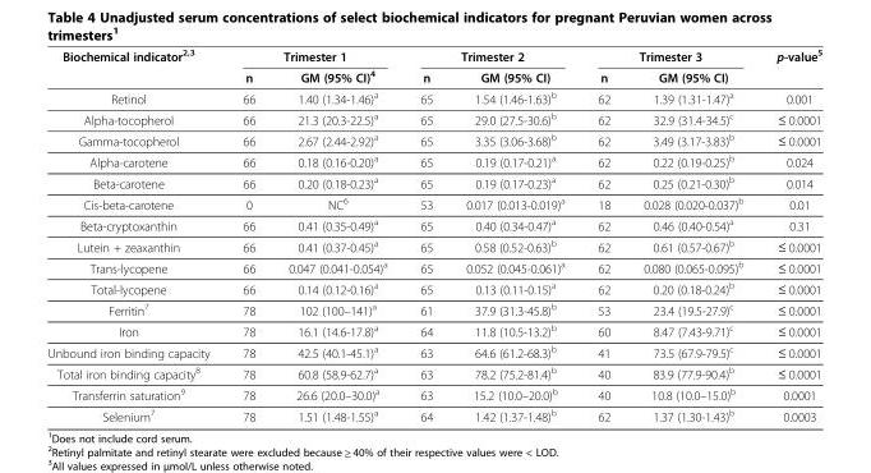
<table><thead><tr><td rowspan="2">Biochemical indicator<sup>2,3</sup></td><td colspan="2">Trimester 1</td><td colspan="2">Trimester 2</td><td colspan="2">Trimester 3</td><td rowspan="2">p-value<sup>5</sup></td></tr><tr><td>n</td><td>GM (95% CI)<sup>4</sup></td><td>n</td><td>GM (95% CI)</td><td>n</td><td>GM (95% CI)</td></tr></thead><tbody><tr><td>Retinol</td><td>66</td><td>1.40 (1.34-1.46)<sup>a</sup></td><td>65</td><td>1.54 (1.46-1.63)<sup>b</sup></td><td>62</td><td>1.39 (1.31-1.47)<sup>a</sup></td><td>0.001</td></tr><tr><td>Alpha-tocopherol</td><td>66</td><td>21.3 (20.3-22.5)<sup>a</sup></td><td>65</td><td>29.0 (27.5-30.6)<sup>b</sup></td><td>62</td><td>32.9 (31.4-34.5)<sup>c</sup></td><td>≤ 0.0001</td></tr><tr><td>Gamma-tocopherol</td><td>66</td><td>2.67 (2.44-2.92)<sup>a</sup></td><td>65</td><td>3.35 (3.06-3.68)<sup>b</sup></td><td>62</td><td>3.49 (3.17-3.83)<sup>b</sup></td><td>≤ 0.0001</td></tr><tr><td>Alpha-carotene</td><td>66</td><td>0.18 (0.16-0.20)<sup>a</sup></td><td>65</td><td>0.19 (0.17-0.21)<sup>a</sup></td><td>62</td><td>0.22 (0.19-0.25)<sup>b</sup></td><td>0.024</td></tr><tr><td>Beta-carotene</td><td>66</td><td>0.20 (0.18-0.23)<sup>a</sup></td><td>65</td><td>0.19 (0.17-0.23)<sup>a</sup></td><td>62</td><td>0.25 (0.21-0.30)<sup>b</sup></td><td>0.014</td></tr><tr><td>Cis-beta-carotene</td><td>0</td><td>NC<sup>6</sup></td><td>53</td><td>0.017 (0.013-0.019)<sup>a</sup></td><td>18</td><td>0.028 (0.020-0.037)<sup>b</sup></td><td>0.01</td></tr><tr><td>Beta-cryptoxanthin</td><td>66</td><td>0.41 (0.35-0.49)<sup>a</sup></td><td>65</td><td>0.40 (0.34-0.47)<sup>a</sup></td><td>62</td><td>0.46 (0.40-0.54)<sup>a</sup></td><td>0.31</td></tr><tr><td>Lutein + zeaxanthin</td><td>66</td><td>0.41 (0.37-0.45)<sup>a</sup></td><td>65</td><td>0.58 (0.52-0.63)<sup>b</sup></td><td>62</td><td>0.61 (0.57-0.67)<sup>b</sup></td><td>≤ 0.0001</td></tr><tr><td>Trans-lycopene</td><td>66</td><td>0.047 (0.041-0.054)<sup>a</sup></td><td>65</td><td>0.052 (0.045-0.061)<sup>a</sup></td><td>62</td><td>0.080 (0.065-0.095)<sup>b</sup></td><td>≤ 0.0001</td></tr><tr><td>Total-lycopene</td><td>66</td><td>0.14 (0.12-0.16)<sup>a</sup></td><td>65</td><td>0.13 (0.11-0.15)<sup>a</sup></td><td>62</td><td>0.20 (0.18-0.24)<sup>b</sup></td><td>≤ 0.0001</td></tr><tr><td>Ferritin<sup>7</sup></td><td>78</td><td>102 (100–141)<sup>a</sup></td><td>61</td><td>37.9 (31.3-45.8)<sup>b</sup></td><td>53</td><td>23.4 (19.5-27.9)<sup>c</sup></td><td>≤ 0.0001</td></tr><tr><td>Iron</td><td>78</td><td>16.1 (14.6-17.8)<sup>a</sup></td><td>64</td><td>11.8 (10.5-13.2)<sup>b</sup></td><td>60</td><td>8.47 (7.43-9.71)<sup>c</sup></td><td>≤ 0.0001</td></tr><tr><td>Unbound iron binding capacity</td><td>78</td><td>42.5 (40.1-45.1)<sup>a</sup></td><td>63</td><td>64.6 (61.2-68.3)<sup>b</sup></td><td>41</td><td>73.5 (67.9-79.5)<sup>c</sup></td><td>≤ 0.0001</td></tr><tr><td>Total iron binding capacity<sup>8</sup></td><td>78</td><td>60.8 (58.9-62.7)<sup>a</sup></td><td>63</td><td>78.2 (75.2-81.4)<sup>b</sup></td><td>40</td><td>83.9 (77.9-90.4)<sup>b</sup></td><td>≤ 0.0001</td></tr><tr><td>Transferrin saturation<sup>9</sup></td><td>78</td><td>26.6 (20.0–30.0)<sup>a</sup></td><td>63</td><td>15.2 (10.0–20.0)<sup>b</sup></td><td>40</td><td>10.8 (10.0–15.0)<sup>b</sup></td><td>0.0001</td></tr><tr><td>Selenium<sup>7</sup></td><td>78</td><td>1.51 (1.48-1.55)<sup>a</sup></td><td>64</td><td>1.42 (1.37-1.48)<sup>b</sup></td><td>62</td><td>1.37 (1.30-1.43)<sup>b</sup></td><td>0.0003</td></tr></tbody></table>